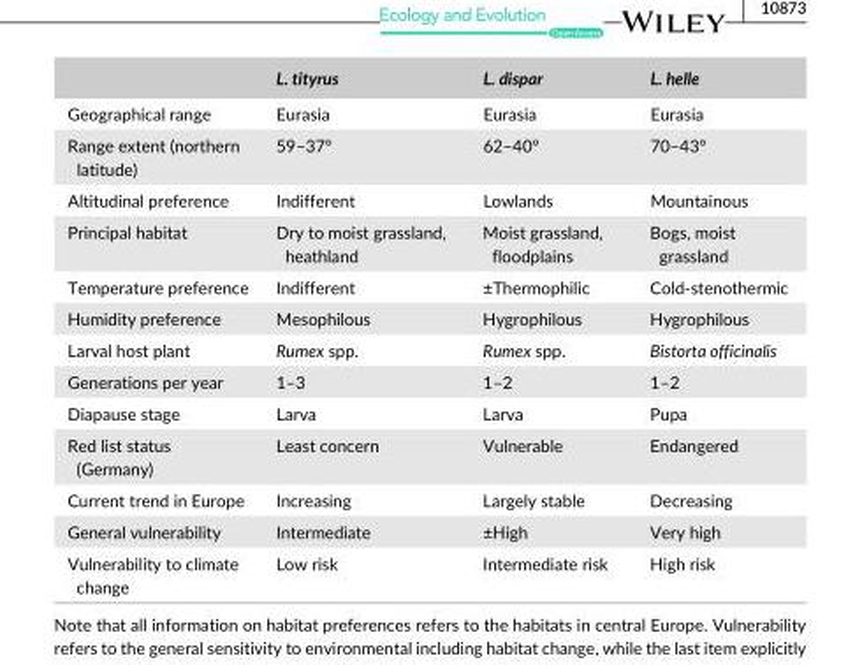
<table><thead><tr><td></td><td>L. tityrus</td><td>L. dispar</td><td>L. helle</td></tr></thead><tbody><tr><td>Geographical range</td><td>Eurasia</td><td>Eurasia</td><td>Eurasia</td></tr><tr><td>Range extent (northern latitude)</td><td>59–37°</td><td>62–40°</td><td>70–43°</td></tr><tr><td>Altitudinal preference</td><td>Indifferent</td><td>Lowlands</td><td>Mountainous</td></tr><tr><td>Principal habitat</td><td>Dry to moist grassland, heathland</td><td>Moist grassland, floodplains</td><td>Bogs, moist grassland</td></tr><tr><td>Temperature preference</td><td>Indifferent</td><td>±Thermophilic</td><td>Cold- stenothermic</td></tr><tr><td>Humidity preference</td><td>Mesophilous</td><td>Hygrophilous</td><td>Hygrophilous</td></tr><tr><td>Larval host plant</td><td>Rumex spp.</td><td>Rumex spp.</td><td>Bistorta officinalis</td></tr><tr><td>Generations per year</td><td>1–3</td><td>1–2</td><td>1–2</td></tr><tr><td>Diapause stage</td><td>Larva</td><td>Larva</td><td>Pupa</td></tr><tr><td>Red list status (Germany)</td><td>Least concern</td><td>Vulnerable</td><td>Endangered</td></tr><tr><td>Current trend in Europe</td><td>Increasing</td><td>Largely stable</td><td>Decreasing</td></tr><tr><td>General vulnerability</td><td>Intermediate</td><td>±High</td><td>Very high</td></tr><tr><td>Vulnerability to climate change</td><td>Low risk</td><td>Intermediate risk</td><td>High risk</td></tr></tbody></table>